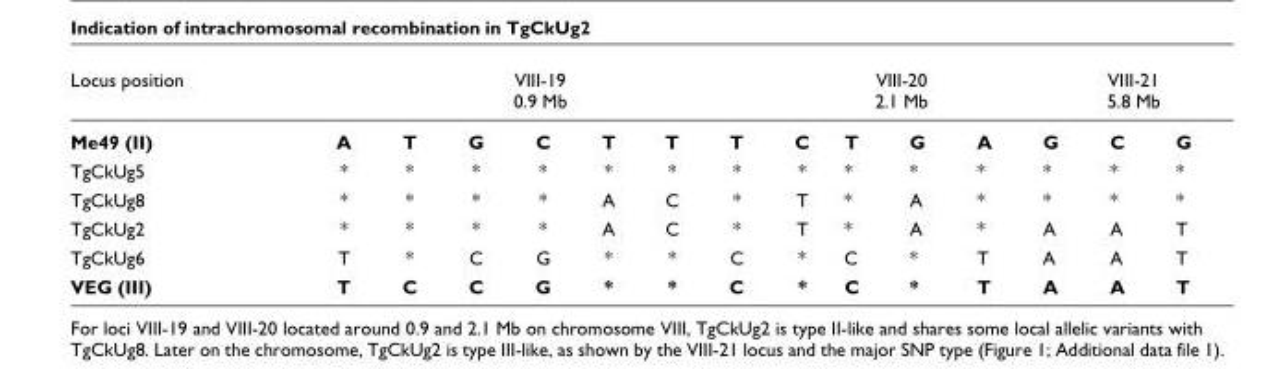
<table><thead><tr><td rowspan="2">Locus position Me49 (II)</td><td colspan="7">VIII-19 0.9 Mb</td><td colspan="4">VIII-20 2.1 Mb</td><td colspan="3">VIII-21 5.8 Mb</td></tr><tr><td>A</td><td>T</td><td>G</td><td>C</td><td>T</td><td>T</td><td>T</td><td>C</td><td>T</td><td>G</td><td>A</td><td>G</td><td>C</td><td>G</td></tr></thead><tbody><tr><td>TgCkUg5</td><td>*</td><td>*</td><td>*</td><td>*</td><td>*</td><td>*</td><td>*</td><td>*</td><td>*</td><td>*</td><td>*</td><td>*</td><td>*</td><td>*</td></tr><tr><td>TgCkUg8</td><td>*</td><td>*</td><td>*</td><td>*</td><td>A</td><td>C</td><td>*</td><td>T</td><td>*</td><td>A</td><td>*</td><td>*</td><td>*</td><td>*</td></tr><tr><td>TgCkUg2</td><td>*</td><td>*</td><td>*</td><td>*</td><td>A</td><td>C</td><td>*</td><td>T</td><td>*</td><td>A</td><td>*</td><td>A</td><td>A</td><td>T</td></tr><tr><td>TgCkUg6</td><td>T</td><td>*</td><td>C</td><td>G</td><td>*</td><td>*</td><td>C</td><td>*</td><td>C</td><td>*</td><td>T</td><td>A</td><td>A</td><td>T</td></tr><tr><td>VEG (III)</td><td>T</td><td>C</td><td>C</td><td>G</td><td>*</td><td>*</td><td>C</td><td>*</td><td>C</td><td>*</td><td>T</td><td>A</td><td>A</td><td>T</td></tr></tbody></table>